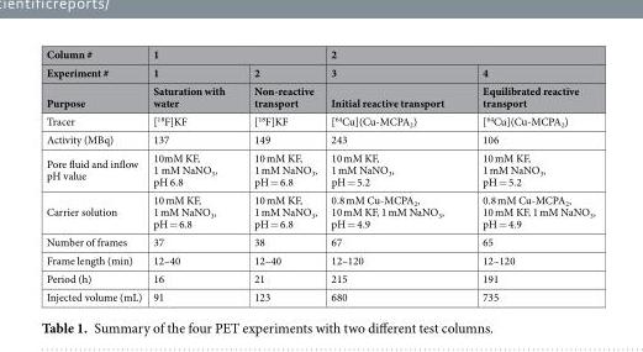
<table><thead><tr><td rowspan="3">Column # Experiment # Purpose</td><td colspan="2">1</td><td colspan="2">2</td></tr><tr><td rowspan="2">1 Saturation with water</td><td rowspan="2">2 Non-reactive transport</td><td rowspan="2">3 Initial reactive transport</td><td rowspan="2">4 Equilibrated reactive transport</td></tr><tr></tr></thead><tbody><tr><td>Tracer</td><td>[<sup>18</sup>F]KF</td><td>[<sup>18</sup>F]KF</td><td>[<sup>64</sup>Cu](Cu-MCPA<sub>2</sub>)</td><td>[<sup>64</sup>Cu](Cu-MCPA<sub>2</sub>)</td></tr><tr><td>Activity (MBq)</td><td>137</td><td>149</td><td>243</td><td>106</td></tr><tr><td>Pore fluid and inflow pH value</td><td>10mM KF, 1 mM NaNO<sub>3</sub>, pH 6.8</td><td>10 mM KF, 1 mM NaNO<sub>3</sub>, pH = 6.8</td><td>10 mM KF, 1 mM NaNO<sub>3</sub>, pH = 5.2</td><td>10 mM KF, 1 mM NaNO<sub>3</sub>, pH = 5.2</td></tr><tr><td>Carrier solution</td><td>10 mM KF, 1 mM NaNO<sub>3</sub>, pH = 6.8</td><td>10 mM KF, 1 mM NaNO<sub>3</sub>, pH = 6.8</td><td>0.8 mM Cu-MCPA<sub>2</sub>, 10 mM KF, 1 mM NaNO<sub>3</sub>, pH = 4.9</td><td>0.8 mM Cu-MCPA<sub>2</sub>, 10 mM KF, 1 mM NaNO<sub>3</sub>, pH = 4.9</td></tr><tr><td>Number of frames</td><td>37</td><td>38</td><td>67</td><td>65</td></tr><tr><td>Frame length (min)</td><td>12–40</td><td>12–40</td><td>12–120</td><td>12–120</td></tr><tr><td>Period (h)</td><td>16</td><td>21</td><td>215</td><td>191</td></tr><tr><td>Injected volume (mL)</td><td>91</td><td>123</td><td>680</td><td>735</td></tr></tbody></table>